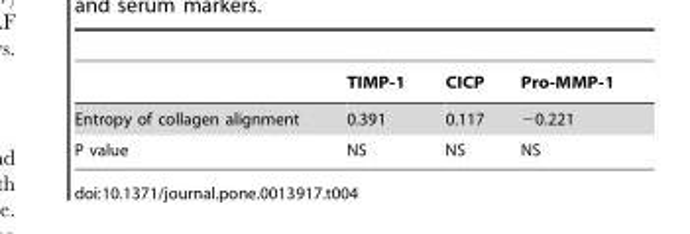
<table><thead><tr><td></td><td>TIMP-1</td><td>CICP</td><td>Pro-MMP-1</td></tr></thead><tbody><tr><td>Entropy of collagen alignment</td><td>0.391</td><td>0.117</td><td>−0.221</td></tr><tr><td>P value</td><td>NS</td><td>NS</td><td>NS</td></tr></tbody></table>